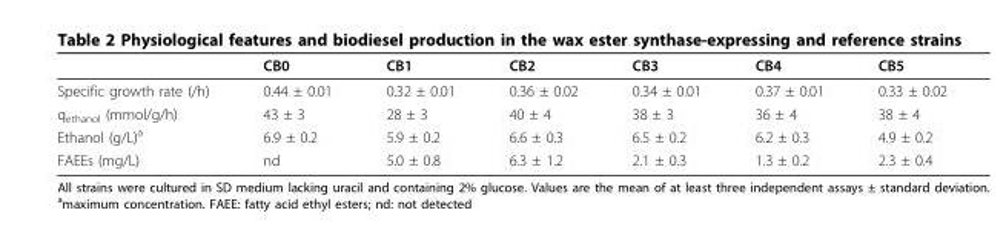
<table><thead><tr><td></td><td>CB0</td><td>CB1</td><td>CB2</td><td>CB3</td><td>CB4</td><td>CB5</td></tr></thead><tbody><tr><td>Specific growth rate (/h)</td><td>0.44 ± 0.01</td><td>0.32 ± 0.01</td><td>0.36 ± 0.02</td><td>0.34 ± 0.01</td><td>0.37 ± 0.01</td><td>0.33 ± 0.02</td></tr><tr><td>q<sub>ethanol</sub> (mmol/g/h)</td><td>43 ± 3</td><td>28 ± 3</td><td>40 ± 4</td><td>38 ± 3</td><td>36 ± 4</td><td>38 ± 4</td></tr><tr><td>Ethanol (g/L)<sup>a</sup></td><td>6.9 ± 0.2</td><td>5.9 ± 0.2</td><td>6.6 ± 0.3</td><td>6.5 ± 0.2</td><td>6.2 ± 0.3</td><td>4.9 ± 0.2</td></tr><tr><td>FAEEs (mg/L)</td><td>nd</td><td>5.0 ± 0.8</td><td>6.3 ± 1.2</td><td>2.1 ± 0.3</td><td>1.3 ± 0.2</td><td>2.3 ± 0.4</td></tr></tbody></table>